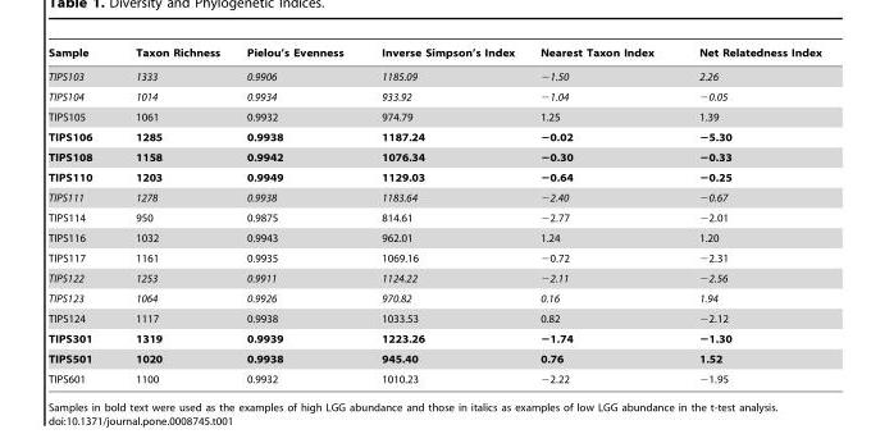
<table><thead><tr><td>Sample</td><td>Taxon Richness</td><td>Pielou’s Evenness</td><td>Inverse Simpson’s Index</td><td>Nearest Taxon Index</td><td>Net Relatedness Index</td></tr></thead><tbody><tr><td>TIPS103</td><td>1333</td><td>0.9906</td><td>1185.09</td><td>−1.50</td><td>2.26</td></tr><tr><td>TIPS104</td><td>1014</td><td>0.9934</td><td>933.92</td><td>−1.04</td><td>−0.05</td></tr><tr><td>TIPS105</td><td>1061</td><td>0.9932</td><td>974.79</td><td>1.25</td><td>1.39</td></tr><tr><td>TIPS106</td><td>1285</td><td>0.9938</td><td>1187.24</td><td>−0.02</td><td>−5.30</td></tr><tr><td>TIPS108</td><td>1158</td><td>0.9942</td><td>1076.34</td><td>−0.30</td><td>−0.33</td></tr><tr><td>TIPS110</td><td>1203</td><td>0.9949</td><td>1129.03</td><td>−0.64</td><td>−0.25</td></tr><tr><td>TIPS111</td><td>1278</td><td>0.9938</td><td>1183.64</td><td>−2.40</td><td>−0.67</td></tr><tr><td>TIPS114</td><td>950</td><td>0.9875</td><td>814.61</td><td>−2.77</td><td>−2.01</td></tr><tr><td>TIPS116</td><td>1032</td><td>0.9943</td><td>962.01</td><td>1.24</td><td>1.20</td></tr><tr><td>TIPS117</td><td>1161</td><td>0.9935</td><td>1069.16</td><td>−0.72</td><td>−2.31</td></tr><tr><td>TIPS122</td><td>1253</td><td>0.9911</td><td>1124.22</td><td>−2.11</td><td>−2.56</td></tr><tr><td>TIPS123</td><td>1064</td><td>0.9926</td><td>970.82</td><td>0.16</td><td>1.94</td></tr><tr><td>TIPS124</td><td>1117</td><td>0.9938</td><td>1033.53</td><td>0.82</td><td>−2.12</td></tr><tr><td>TIPS301</td><td>1319</td><td>0.9939</td><td>1223.26</td><td>−1.74</td><td>−1.30</td></tr><tr><td>TIPS501</td><td>1020</td><td>0.9938</td><td>945.40</td><td>0.76</td><td>1.52</td></tr><tr><td>TIPS601</td><td>1100</td><td>0.9932</td><td>1010.23</td><td>−2.22</td><td>−1.95</td></tr></tbody></table>